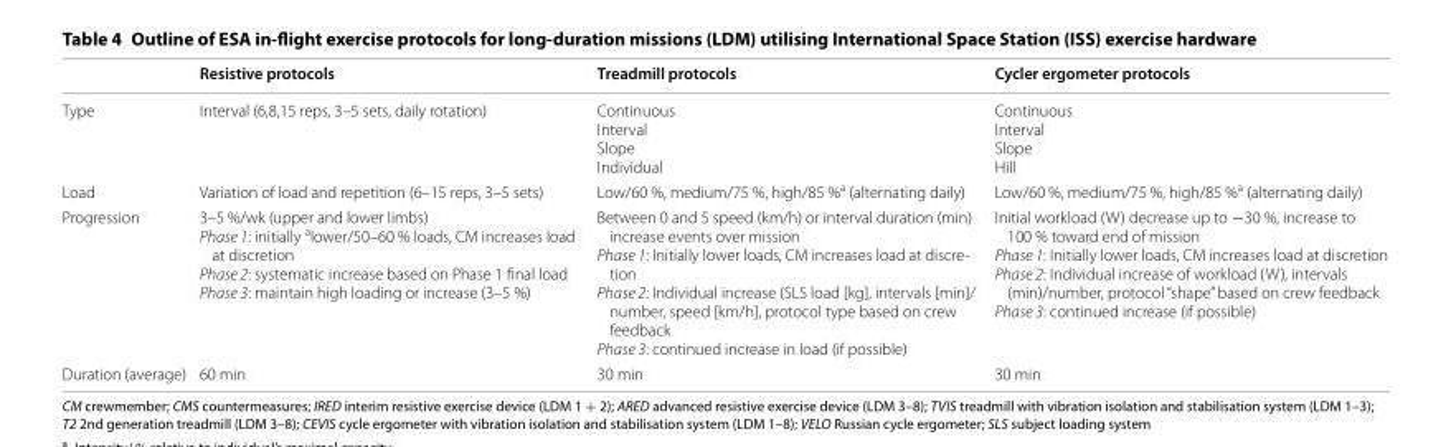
<table><thead><tr><td></td><td>Resistive protocols</td><td>Treadmill protocols</td><td>Cycler ergometer protocols</td></tr></thead><tbody><tr><td>Type</td><td>Interval (6,8,15 reps, 3–5 sets, daily rotation)</td><td>Continuous Interval Slope Individual</td><td>Continuous Interval Slope Hill</td></tr><tr><td>Load</td><td>Variation of load and repetition (6–15 reps, 3–5 sets)</td><td>Low/60 %, medium/75 %, high/85 %<sup>a</sup> (alternating daily)</td><td>Low/60 %, medium/75 %, high/85 %<sup>a</sup> (alternating daily)</td></tr><tr><td>Progression</td><td>3–5 %/wk (upper and lower limbs) Phase 1: initially <sup>a</sup>lower/50–60 % loads, CM increases load at discretion Phase 2: systematic increase based on Phase 1 final load Phase 3: maintain high loading or increase (3–5 %)</td><td>Between 0 and 5 speed (km/h) or interval duration (min) increase events over mission Phase 1: Initially lower loads, CM increases load at discre‑ tion Phase 2: Individual increase (SLS load [kg], intervals [min]/ number, speed [km/h], protocol type based on crew feedback Phase 3: continued increase in load (if possible)</td><td>Initial workload (W) decrease up to −30 %, increase to 100 % toward end of mission Phase 1: Initially lower loads, CM increases load at discretion Phase 2: Individual increase of workload (W), intervals (min)/number, protocol “shape” based on crew feedback Phase 3: continued increase (if possible)</td></tr><tr><td>Duration (average)</td><td>60 min</td><td>30 min</td><td>30 min</td></tr></tbody></table>